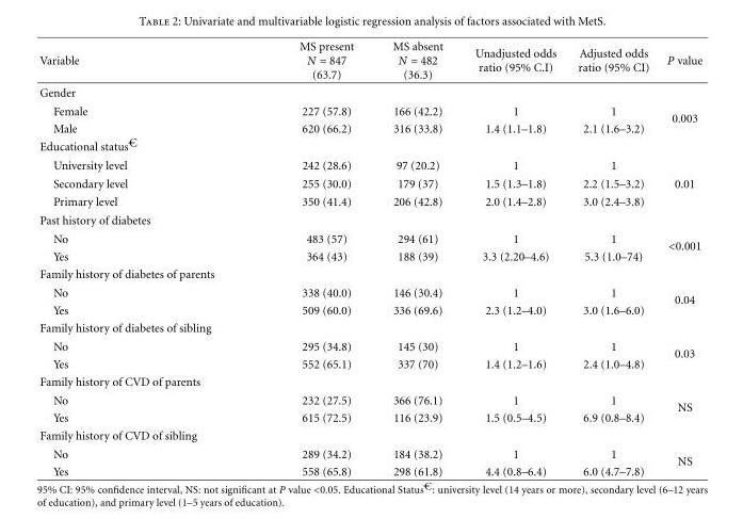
<table><thead><tr><td>Variable</td><td>MS present N = 847 (63.7)</td><td>MS absent N = 482 (36.3)</td><td>Unadjusted odds ratio (95% C.I)</td><td>Adjusted odds ratio (95% CI)</td><td>P value</td></tr></thead><tbody><tr><td colspan="6">Gender</td></tr><tr><td>Female</td><td>227 (57.8)</td><td>166 (42.2)</td><td>1</td><td>1</td><td rowspan="2">0.003</td></tr><tr><td>Male</td><td>620 (66.2)</td><td>316 (33.8)</td><td>1.4 (1.1–1.8)</td><td>2.1 (1.6–3.2)</td></tr><tr><td colspan="6">Educational status<sup>€</sup></td></tr><tr><td>University level</td><td>242 (28.6)</td><td>97 (20.2)</td><td>1</td><td>1</td><td></td></tr><tr><td>Secondary level</td><td>255 (30.0)</td><td>179 (37)</td><td>1.5 (1.3–1.8)</td><td>2.2 (1.5–3.2)</td><td>0.01</td></tr><tr><td>Primary level</td><td>350 (41.4)</td><td>206 (42.8)</td><td>2.0 (1.4–2.8)</td><td>3.0 (2.4–3.8)</td><td></td></tr><tr><td colspan="6">Past history of diabetes</td></tr><tr><td>No</td><td>483 (57)</td><td>294 (61)</td><td>1</td><td>1</td><td rowspan="2">&lt;0.001</td></tr><tr><td>Yes</td><td>364 (43)</td><td>188 (39)</td><td>3.3 (2.20–4.6)</td><td>5.3 (1.0–74)</td></tr><tr><td colspan="6">Family history of diabetes of parents</td></tr><tr><td>No</td><td>338 (40.0)</td><td>146 (30.4)</td><td>1</td><td>1</td><td rowspan="2">0.04</td></tr><tr><td>Yes</td><td>509 (60.0)</td><td>336 (69.6)</td><td>2.3 (1.2–4.0)</td><td>3.0 (1.6–6.0)</td></tr><tr><td colspan="6">Family history of diabetes of sibling</td></tr><tr><td>No</td><td>295 (34.8)</td><td>145 (30)</td><td>1</td><td>1</td><td rowspan="2">0.03</td></tr><tr><td>Yes</td><td>552 (65.1)</td><td>337 (70)</td><td>1.4 (1.2–1.6)</td><td>2.4 (1.0–4.8)</td></tr><tr><td colspan="6">Family history of CVD of parents</td></tr><tr><td>No</td><td>232 (27.5)</td><td>366 (76.1)</td><td>1</td><td>1</td><td rowspan="2">NS</td></tr><tr><td>Yes</td><td>615 (72.5)</td><td>116 (23.9)</td><td>1.5 (0.5–4.5)</td><td>6.9 (0.8–8.4)</td></tr><tr><td colspan="6">Family history of CVD of sibling</td></tr><tr><td>No</td><td>289 (34.2)</td><td>184 (38.2)</td><td>1</td><td>1</td><td rowspan="2">NS</td></tr><tr><td>Yes</td><td>558 (65.8)</td><td>298 (61.8)</td><td>4.4 (0.8–6.4)</td><td>6.0 (4.7–7.8)</td></tr></tbody></table>